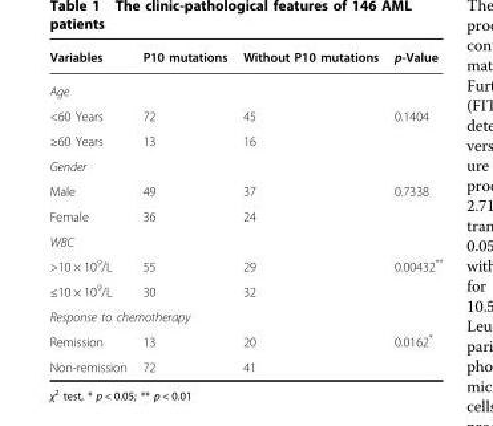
<table><thead><tr><td>Variables</td><td>P10 mutations</td><td>Without P10 mutations</td><td>p-Value</td></tr></thead><tbody><tr><td colspan="4">Age</td></tr><tr><td>&lt;60 Years</td><td>72</td><td>45</td><td>0.1404</td></tr><tr><td>≥60 Years</td><td>13</td><td>16</td><td></td></tr><tr><td colspan="4">Gender</td></tr><tr><td>Male</td><td>49</td><td>37</td><td>0.7338</td></tr><tr><td>Female</td><td>36</td><td>24</td><td></td></tr><tr><td colspan="4">WBC</td></tr><tr><td>&gt;10 × 10<sup>9</sup>/L</td><td>55</td><td>29</td><td>0.00432**</td></tr><tr><td>≤10 × 10<sup>9</sup>/L</td><td>30</td><td>32</td><td></td></tr><tr><td colspan="4">Response to chemotherapy</td></tr><tr><td>Remission</td><td>13</td><td>20</td><td>0.0162*</td></tr><tr><td>Non-remission</td><td>72</td><td>41</td><td></td></tr></tbody></table>